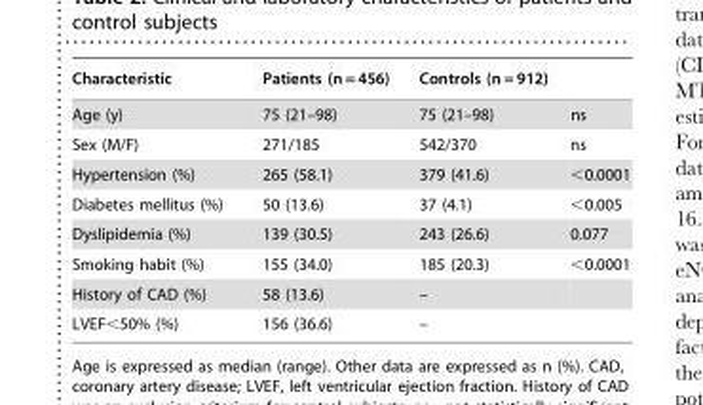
<table><thead><tr><td>Characteristic</td><td>Patients (n = 456)</td><td>Controls (n = 912)</td><td></td></tr></thead><tbody><tr><td>Age (y)</td><td>75 (21–98)</td><td>75 (21–98)</td><td>ns</td></tr><tr><td>Sex (M/F)</td><td>271/185</td><td>542/370</td><td>ns</td></tr><tr><td>Hypertension (%)</td><td>265 (58.1)</td><td>379 (41.6)</td><td>&lt;0.0001</td></tr><tr><td>Diabetes mellitus (%)</td><td>50 (13.6)</td><td>37 (4.1)</td><td>&lt;0.005</td></tr><tr><td>Dyslipidemia (%)</td><td>139 (30.5)</td><td>243 (26.6)</td><td>0.077</td></tr><tr><td>Smoking habit (%)</td><td>155 (34.0)</td><td>185 (20.3)</td><td>&lt;0.0001</td></tr><tr><td>History of CAD (%)</td><td>58 (13.6)</td><td>–</td><td></td></tr><tr><td>LVEF&lt;50% (%)</td><td>156 (36.6)</td><td>–</td><td></td></tr></tbody></table>